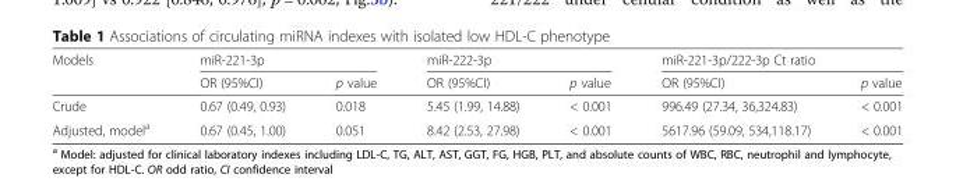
<table><thead><tr><td rowspan="2">Models</td><td colspan="2">miR-221-3p</td><td colspan="2">miR-222-3p</td><td colspan="2">miR-221-3p/222-3p Ct ratio</td></tr><tr><td>OR (95%CI)</td><td>p value</td><td>OR (95%CI)</td><td>p value</td><td>OR (95%CI)</td><td>p value</td></tr></thead><tbody><tr><td>Crude</td><td>0.67 (0.49, 0.93)</td><td>0.018</td><td>5.45 (1.99, 14.88)</td><td>&lt; 0.001</td><td>996.49 (27.34, 36,324.83)</td><td>&lt; 0.001</td></tr><tr><td>Adjusted, model<sup>a</sup></td><td>0.67 (0.45, 1.00)</td><td>0.051</td><td>8.42 (2.53, 27.98)</td><td>&lt; 0.001</td><td>5617.96 (59.09, 534,118.17)</td><td>&lt; 0.001</td></tr></tbody></table>